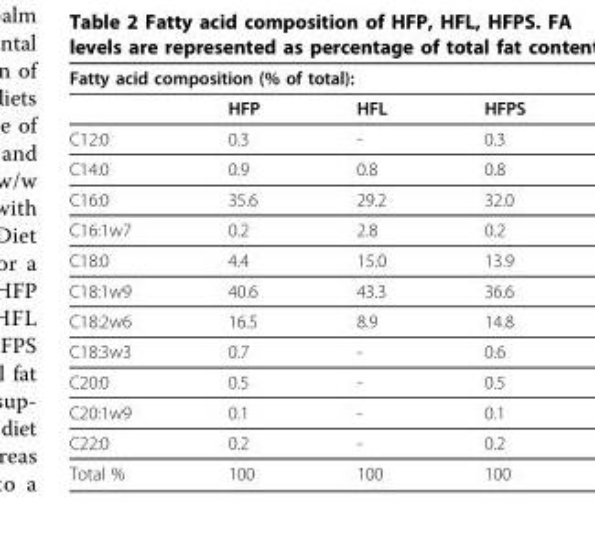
<table><thead><tr><td colspan="4">Fatty acid composition (% of total):</td></tr><tr><td></td><td>HFP</td><td>HFL</td><td>HFPS</td></tr></thead><tbody><tr><td>C12:0</td><td>0.3</td><td>-</td><td>0.3</td></tr><tr><td>C14:0</td><td>0.9</td><td>0.8</td><td>0.8</td></tr><tr><td>C16:0</td><td>35.6</td><td>29.2</td><td>32.0</td></tr><tr><td>C16:1w7</td><td>0.2</td><td>2.8</td><td>0.2</td></tr><tr><td>C18:0</td><td>4.4</td><td>15.0</td><td>13.9</td></tr><tr><td>C18:1w9</td><td>40.6</td><td>43.3</td><td>36.6</td></tr><tr><td>C18:2w6</td><td>16.5</td><td>8.9</td><td>14.8</td></tr><tr><td>C18:3w3</td><td>0.7</td><td>-</td><td>0.6</td></tr><tr><td>C20:0</td><td>0.5</td><td>-</td><td>0.5</td></tr><tr><td>C20:1w9</td><td>0.1</td><td>-</td><td>0.1</td></tr><tr><td>C22:0</td><td>0.2</td><td>-</td><td>0.2</td></tr><tr><td>Total %</td><td>100</td><td>100</td><td>100</td></tr></tbody></table>